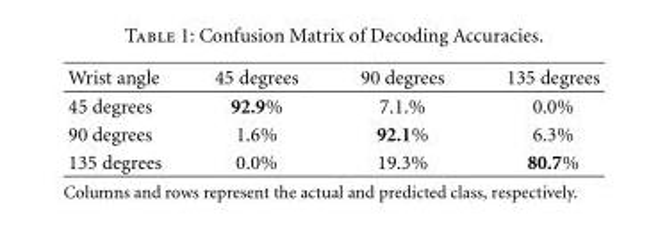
<table><thead><tr><td>Wrist angle</td><td>45 degrees</td><td>90 degrees</td><td>135 degrees</td></tr></thead><tbody><tr><td>45 degrees</td><td>92.9%</td><td>7.1.%</td><td>0.0%</td></tr><tr><td>90 degrees</td><td>1.6%</td><td>92.1%</td><td>6.3%</td></tr><tr><td>135 degrees</td><td>0.0%</td><td>19.3%</td><td>80.7%</td></tr></tbody></table>